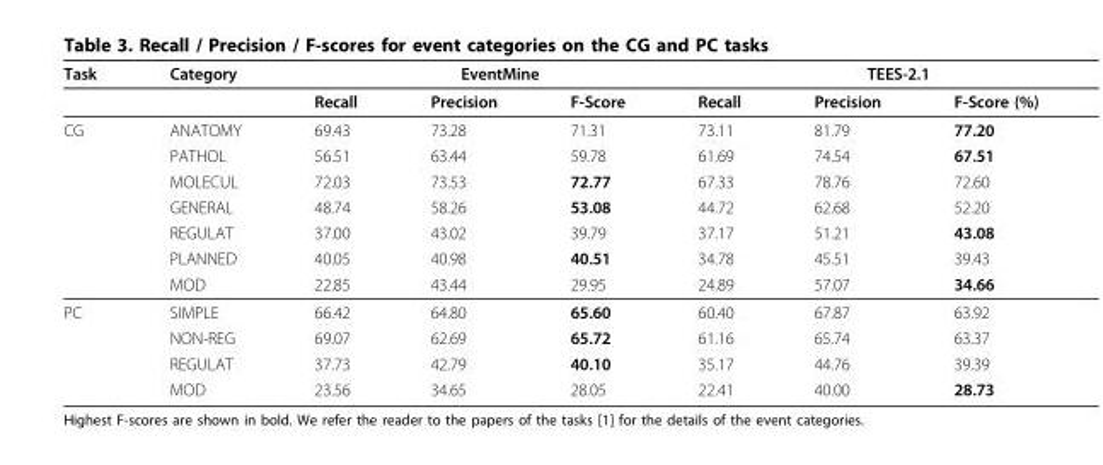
<table><thead><tr><td rowspan="2">Task</td><td rowspan="2">Category</td><td colspan="3">EventMine</td><td colspan="3">TEES-2.1</td></tr><tr><td>Recall</td><td>Precision</td><td>F-Score</td><td>Recall</td><td>Precision</td><td>F-Score (%)</td></tr></thead><tbody><tr><td rowspan="7">CG</td><td>ANATOMY</td><td>69.43</td><td>73.28</td><td>71.31</td><td>73.11</td><td>81.79</td><td>77.20</td></tr><tr><td>PATHOL</td><td>56.51</td><td>63.44</td><td>59.78</td><td>61.69</td><td>74.54</td><td>67.51</td></tr><tr><td>MOLECUL</td><td>72.03</td><td>73.53</td><td>72.77</td><td>67.33</td><td>78.76</td><td>72.60</td></tr><tr><td>GENERAL</td><td>48.74</td><td>58.26</td><td>53.08</td><td>44.72</td><td>62.68</td><td>52.20</td></tr><tr><td>REGULAT</td><td>37.00</td><td>43.02</td><td>39.79</td><td>37.17</td><td>51.21</td><td>43.08</td></tr><tr><td>PLANNED</td><td>40.05</td><td>40.98</td><td>40.51</td><td>34.78</td><td>45.51</td><td>39.43</td></tr><tr><td>MOD</td><td>22.85</td><td>43.44</td><td>29.95</td><td>24.89</td><td>57.07</td><td>34.66</td></tr><tr><td rowspan="4">PC</td><td>SIMPLE</td><td>66.42</td><td>64.80</td><td>65.60</td><td>60.40</td><td>67.87</td><td>63.92</td></tr><tr><td>NON-REG</td><td>69.07</td><td>62.69</td><td>65.72</td><td>61.16</td><td>65.74</td><td>63.37</td></tr><tr><td>REGULAT</td><td>37.73</td><td>42.79</td><td>40.10</td><td>35.17</td><td>44.76</td><td>39.39</td></tr><tr><td>MOD</td><td>23.56</td><td>34.65</td><td>28.05</td><td>22.41</td><td>40.00</td><td>28.73</td></tr></tbody></table>